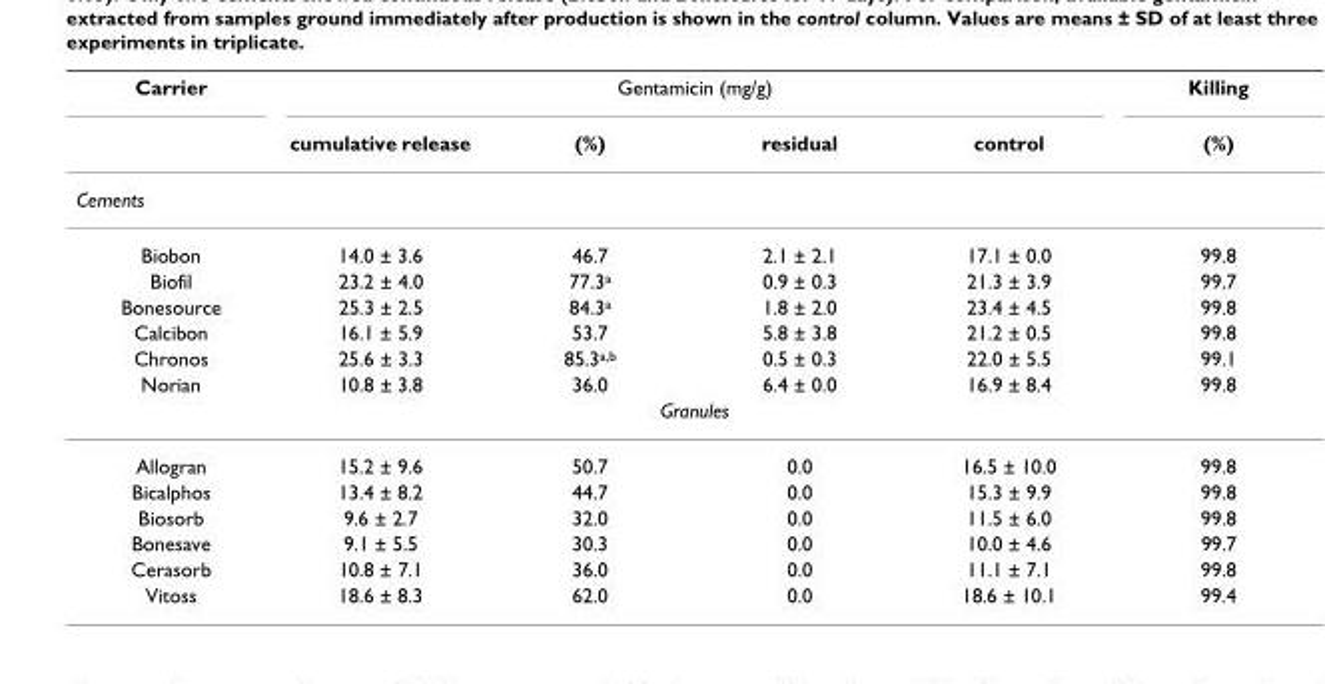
<table><thead><tr><td rowspan="2">Carrier</td><td colspan="4">Gentamicin (mg/g)</td><td rowspan="2">Killing (%)</td></tr><tr><td>cumulative release</td><td>(%)</td><td>residual</td><td>control</td></tr></thead><tbody><tr><td colspan="6">Cements</td></tr><tr><td>Biobon</td><td>14.0 ± 3.6</td><td>46.7</td><td>2.1 ± 2.1</td><td>17.1 ± 0.0</td><td>99.8</td></tr><tr><td>Biofil</td><td>23.2 ± 4.0</td><td>77.3a</td><td>0.9 ± 0.3</td><td>21.3 ± 3.9</td><td>99.7</td></tr><tr><td>Bonesource</td><td>25.3 ± 2.5</td><td>84.3a</td><td>1.8 ± 2.0</td><td>23.4 ± 4.5</td><td>99.8</td></tr><tr><td>Calcibon</td><td>16.1 ± 5.9</td><td>53.7</td><td>5.8 ± 3.8</td><td>21.2 ± 0.5</td><td>99.8</td></tr><tr><td>Chronos</td><td>25.6 ± 3.3</td><td>85.3a,b</td><td>0.5 ± 0.3</td><td>22.0 ± 5.5</td><td>99.1</td></tr><tr><td>Norian</td><td>10.8 ± 3.8</td><td>36.0</td><td>6.4 ± 0.0</td><td>16.9 ± 8.4</td><td>99.8</td></tr><tr><td colspan="6">Granules</td></tr><tr><td>Allogran</td><td>15.2 ± 9.6</td><td>50.7</td><td>0.0</td><td>16.5 ± 10.0</td><td>99.8</td></tr><tr><td>Bicalphos</td><td>13.4 ± 8.2</td><td>44.7</td><td>0.0</td><td>15.3 ± 9.9</td><td>99.8</td></tr><tr><td>Biosorb</td><td>9.6 ± 2.7</td><td>32.0</td><td>0.0</td><td>11.5 ± 6.0</td><td>99.8</td></tr><tr><td>Bonesave</td><td>9.1 ± 5.5</td><td>30.3</td><td>0.0</td><td>10.0 ± 4.6</td><td>99.7</td></tr><tr><td>Cerasorb</td><td>10.8 ± 7.1</td><td>36.0</td><td>0.0</td><td>11.1 ± 7.1</td><td>99.8</td></tr><tr><td>Vitoss</td><td>18.6 ± 8.3</td><td>62.0</td><td>0.0</td><td>18.6 ± 10.1</td><td>99.4</td></tr></tbody></table>